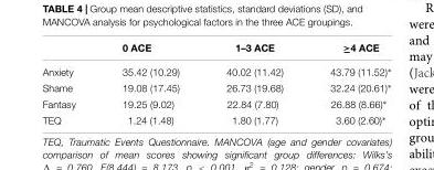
<table><thead><tr><td></td><td>0 ACE</td><td>1–3 ACE</td><td>≥4 ACE</td></tr></thead><tbody><tr><td>Anxiety</td><td>35.42 (10.29)</td><td>40.02 (11.42)</td><td>43.79 (11.52)∗</td></tr><tr><td>Shame</td><td>19.08 (17.45)</td><td>26.73 (19.68)</td><td>32.24 (20.61)∗</td></tr><tr><td>Fantasy</td><td>19.25 (9.02)</td><td>22.84 (7.80)</td><td>26.88 (8.66)∗</td></tr><tr><td>TEQ</td><td>1.24 (1.48)</td><td>1.80 (1.77)</td><td>3.60 (2.60)∗</td></tr></tbody></table>